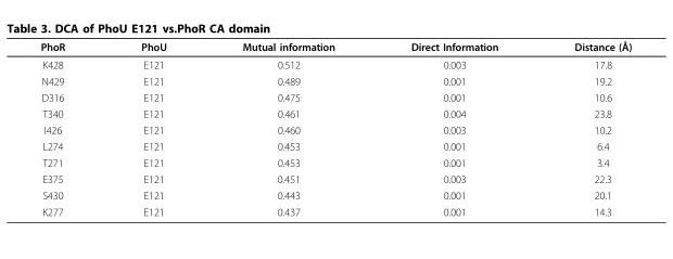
<table><thead><tr><td>PhoR</td><td>PhoU</td><td>Mutual information</td><td>Direct Information</td><td>Distance (Å)</td></tr></thead><tbody><tr><td>K428</td><td>E121</td><td>0.512</td><td>0.003</td><td>17.8</td></tr><tr><td>N429</td><td>E121</td><td>0.489</td><td>0.001</td><td>19.2</td></tr><tr><td>D316</td><td>E121</td><td>0.475</td><td>0.001</td><td>10.6</td></tr><tr><td>T340</td><td>E121</td><td>0.461</td><td>0.004</td><td>23.8</td></tr><tr><td>I426</td><td>E121</td><td>0.460</td><td>0.003</td><td>10.2</td></tr><tr><td>L274</td><td>E121</td><td>0.453</td><td>0.001</td><td>6.4</td></tr><tr><td>T271</td><td>E121</td><td>0.453</td><td>0.001</td><td>3.4</td></tr><tr><td>E375</td><td>E121</td><td>0.451</td><td>0.003</td><td>22.3</td></tr><tr><td>S430</td><td>E121</td><td>0.443</td><td>0.001</td><td>20.1</td></tr><tr><td>K277</td><td>E121</td><td>0.437</td><td>0.001</td><td>14.3</td></tr></tbody></table>